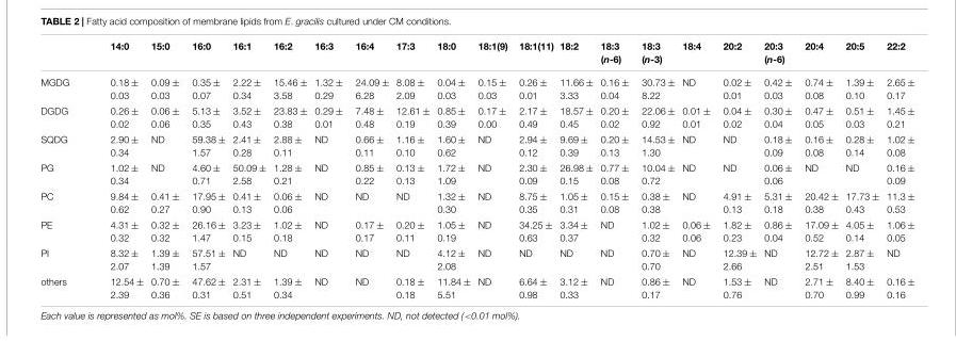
<table><thead><tr><td></td><td>14:0</td><td>15:0</td><td>16:0</td><td>16:1</td><td>16:2</td><td>16:3</td><td>16:4</td><td>17:3</td><td>18:0</td><td>18:1(9)</td><td>18:1(11)</td><td>18:2</td><td>18:3 (n-6)</td><td>18:3 (n-3)</td><td>18:4</td><td>20:2</td><td>20:3 (n-6)</td><td>20:4</td><td>20:5</td><td>22:2</td></tr></thead><tbody><tr><td>MGDG</td><td>0.18 ± 0.03</td><td>0.09 ± 0.03</td><td>0.35 ± 0.07</td><td>2.22 ± 0.34</td><td>15.46 ± 3.58</td><td>1.32 ± 0.29</td><td>24.09 ± 6.28</td><td>8.08 ± 2.09</td><td>0.04 ± 0.03</td><td>0.15 ± 0.03</td><td>0.26 ± 0.01</td><td>11.66 ± 3.33</td><td>0.16 ± 0.04</td><td>30.73 ± 8.22</td><td>ND</td><td>0.02 ± 0.01</td><td>0.42 ± 0.03</td><td>0.74 ± 0.08</td><td>1.39 ± 0.10</td><td>2.65 ± 0.17</td></tr><tr><td>DGDG</td><td>0.26 ± 0.02</td><td>0.06 ± 0.06</td><td>5.13 ± 0.35</td><td>3.52 ± 0.43</td><td>23.83 ± 0.38</td><td>0.29 ± 0.01</td><td>7.48 ± 0.48</td><td>12.61 ± 0.19</td><td>0.85 ± 0.39</td><td>0.17 ± 0.00</td><td>2.17 ± 0.49</td><td>18.57 ± 0.45</td><td>0.20 ± 0.02</td><td>22.06 ± 0.92</td><td>0.01 ± 0.01</td><td>0.04 ± 0.02</td><td>0.30 ± 0.04</td><td>0.47 ± 0.05</td><td>0.51 ± 0.03</td><td>1.45 ± 0.21</td></tr><tr><td>SQDG</td><td>2.90 ± 0.34</td><td>ND</td><td>59.38 ± 1.57</td><td>2.41 ± 0.28</td><td>2.88 ± 0.11</td><td>ND</td><td>0.66 ± 0.11</td><td>1.16 ± 0.10</td><td>1.60 ± 0.62</td><td>ND</td><td>2.94 ± 0.12</td><td>9.69 ± 0.39</td><td>0.20 ± 0.13</td><td>14.53 ± 1.30</td><td>ND</td><td>ND</td><td>0.18 ± 0.09</td><td>0.16 ± 0.08</td><td>0.28 ± 0.14</td><td>1.02 ± 0.08</td></tr><tr><td>PG</td><td>1.02 ± 0.34</td><td>ND</td><td>4.60 ± 0.71</td><td>50.09 ± 2.58</td><td>1.28 ± 0.21</td><td>ND</td><td>0.85 ± 0.22</td><td>0.13 ± 0.13</td><td>1.72 ± 1.09</td><td>ND</td><td>2.30 ± 0.09</td><td>26.98 ± 0.15</td><td>0.77 ± 0.08</td><td>10.04 ± 0.72</td><td>ND</td><td>ND</td><td>0.06 ± 0.06</td><td>ND</td><td>ND</td><td>0.16 ± 0.09</td></tr><tr><td>PC</td><td>9.84 ± 0.62</td><td>0.41 ± 0.27</td><td>17.95 ± 0.90</td><td>0.41 ± 0.13</td><td>0.06 ± 0.06</td><td>ND</td><td>ND</td><td>ND</td><td>1.32 ± 0.30</td><td>ND</td><td>8.75 ± 0.35</td><td>1.05 ± 0.31</td><td>0.15 ± 0.08</td><td>0.38 ± 0.38</td><td>ND</td><td>4.91 ± 0.13</td><td>5.31 ± 0.18</td><td>20.42 ± 0.38</td><td>17.73 ± 0.43</td><td>11.3 ± 0.53</td></tr><tr><td>PE</td><td>4.31 ± 0.32</td><td>0.32 ± 0.32</td><td>26.16 ± 1.47</td><td>3.23 ± 0.15</td><td>1.02 ± 0.18</td><td>ND</td><td>0.17 ± 0.17</td><td>0.20 ± 0.11</td><td>1.05 ± 0.19</td><td>ND</td><td>34.25 ± 0.63</td><td>3.34 ± 0.37</td><td>ND</td><td>1.02 ± 0.32</td><td>0.06 ± 0.06</td><td>1.82 ± 0.23</td><td>0.86 ± 0.04</td><td>17.09 ± 0.52</td><td>4.05 ± 0.14</td><td>1.06 ± 0.05</td></tr><tr><td>PI</td><td>8.32 ± 2.07</td><td>1.39 ± 1.39</td><td>57.51 ± 1.57</td><td>ND</td><td>ND</td><td>ND</td><td>ND</td><td>ND</td><td>4.12 ± 2.08</td><td>ND</td><td>ND</td><td>ND</td><td>ND</td><td>0.70 ± 0.70</td><td>ND</td><td>12.39 ± 2.66</td><td>ND</td><td>12.72 ± 2.51</td><td>2.87 ± 1.53</td><td>ND</td></tr><tr><td>others</td><td>12.54 ± 2.39</td><td>0.70 ± 0.36</td><td>47.62 ± 0.31</td><td>2.31 ± 0.51</td><td>1.39 ± 0.34</td><td>ND</td><td>ND</td><td>0.18 ± 0.18</td><td>11.84 ± 5.51</td><td>ND</td><td>6.64 ± 0.98</td><td>3.12 ± 0.33</td><td>ND</td><td>0.86 ± 0.17</td><td>ND</td><td>1.53 ± 0.76</td><td>ND</td><td>2.71 ± 0.70</td><td>8.40 ± 0.99</td><td>0.16 ± 0.16</td></tr></tbody></table>